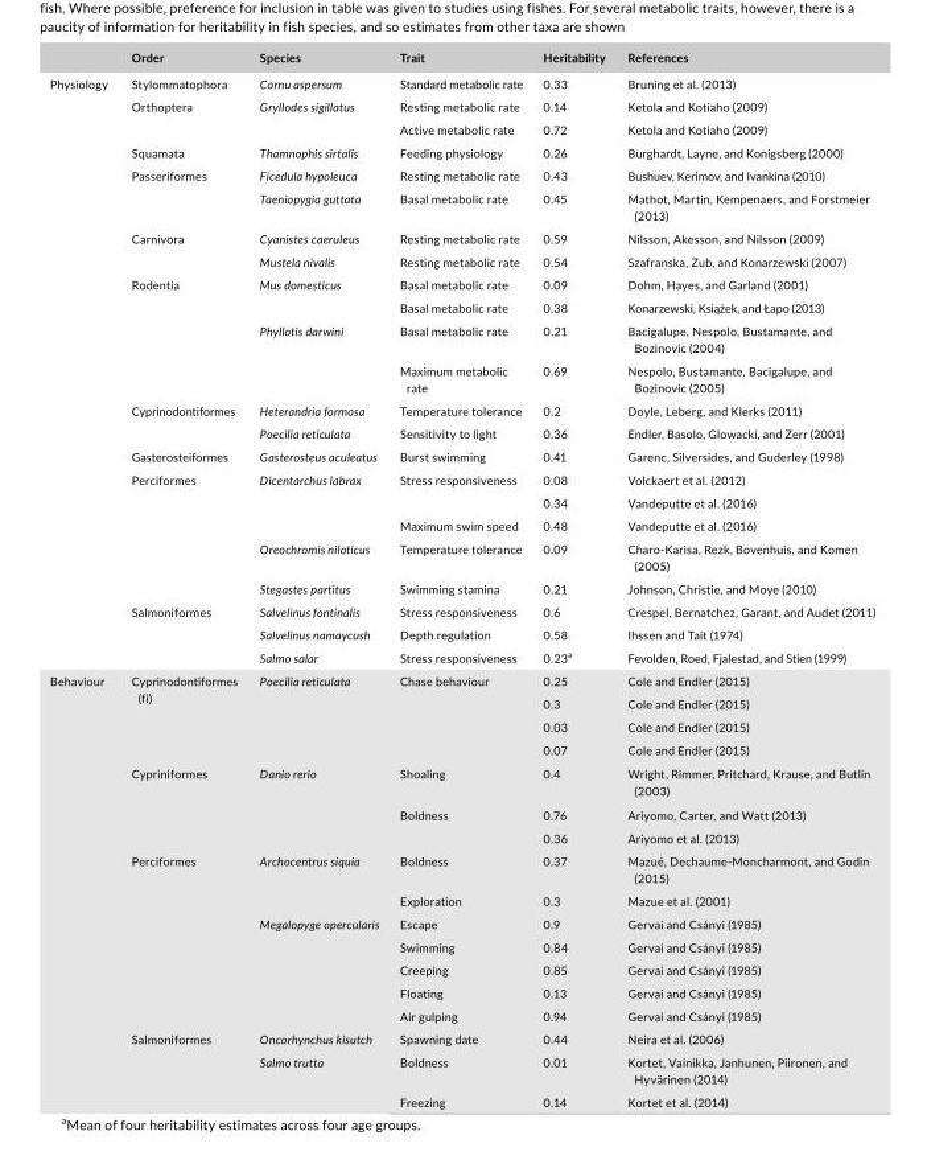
<table><thead><tr><td></td><td>Order</td><td>Species</td><td>Trait</td><td>Heritability</td><td>References</td></tr></thead><tbody><tr><td rowspan="23">Physiology</td><td>Stylommatophora</td><td>Cornu aspersum</td><td>Standard metabolic rate</td><td>0.33</td><td>Bruning et al. (2013)</td></tr><tr><td rowspan="2">Orthoptera</td><td rowspan="2">Gryllodes sigillatus</td><td>Resting metabolic rate</td><td>0.14</td><td>Ketola and Kotiaho (2009)</td></tr><tr><td>Active metabolic rate</td><td>0.72</td><td>Ketola and Kotiaho (2009)</td></tr><tr><td>Squamata</td><td>Thamnophis sirtalis</td><td>Feeding physiology</td><td>0.26</td><td>Burghardt, Layne, and Konigsberg (2000)</td></tr><tr><td rowspan="2">Passeriformes</td><td>Ficedula hypoleuca</td><td>Resting metabolic rate</td><td>0.43</td><td>Bushuev, Kerimov, and Ivankina (2010)</td></tr><tr><td>Taeniopygia guttata</td><td>Basal metabolic rate</td><td>0.45</td><td>Mathot, Martin, Kempenaers, and Forstmeier (2013)</td></tr><tr><td rowspan="2">Carnivora</td><td>Cyanistes caeruleus</td><td>Resting metabolic rate</td><td>0.59</td><td>Nilsson, Akesson, and Nilsson (2009)</td></tr><tr><td>Mustela nivalis</td><td>Resting metabolic rate</td><td>0.54</td><td>Szafranska, Zub, and Konarzewski (2007)</td></tr><tr><td rowspan="4">Rodentia</td><td rowspan="2">Mus domesticus</td><td>Basal metabolic rate</td><td>0.09</td><td>Dohm, Hayes, and Garland (2001)</td></tr><tr><td>Basal metabolic rate</td><td>0.38</td><td>Konarzewski, Książek, and Łapo (2013)</td></tr><tr><td rowspan="2">Phyllotis darwini</td><td>Basal metabolic rate</td><td>0.21</td><td>Bacigalupe, Nespolo, Bustamante, and Bozinovic (2004)</td></tr><tr><td>Maximum metabolic rate</td><td>0.69</td><td>Nespolo, Bustamante, Bacigalupe, and Bozinovic (2005)</td></tr><tr><td rowspan="2">Cyprinodontiformes</td><td>Heterandria formosa</td><td>Temperature tolerance</td><td>0.2</td><td>Doyle, Leberg, and Klerks (2011)</td></tr><tr><td>Poecilia reticulata</td><td>Sensitivity to light</td><td>0.36</td><td>Endler, Basolo, Glowacki, and Zerr (2001)</td></tr><tr><td>Gasterosteiformes</td><td>Gasterosteus aculeatus</td><td>Burst swimming</td><td>0.41</td><td>Garenc, Silversides, and Guderley (1998)</td></tr><tr><td rowspan="5">Perciformes</td><td rowspan="3">Dicentarchus labrax</td><td rowspan="2">Stress responsiveness</td><td>0.08</td><td>Volckaert et al. (2012)</td></tr><tr><td>0.34</td><td>Vandeputte et al. (2016)</td></tr><tr><td>Maximum swim speed</td><td>0.48</td><td>Vandeputte et al. (2016)</td></tr><tr><td>Oreochromis niloticus</td><td>Temperature tolerance</td><td>0.09</td><td>Charo- Karisa, Rezk, Bovenhuis, and Komen (2005)</td></tr><tr><td>Stegastes partitus</td><td>Swimming stamina</td><td>0.21</td><td>Johnson, Christie, and Moye (2010)</td></tr><tr><td rowspan="3">Salmoniformes</td><td>Salvelinus fontinalis</td><td>Stress responsiveness</td><td>0.6</td><td>Crespel, Bernatchez, Garant, and Audet (2011)</td></tr><tr><td>Salvelinus namaycush</td><td>Depth regulation</td><td>0.58</td><td>Ihssen and Tait (1974)</td></tr><tr><td>Salmo salar</td><td>Stress responsiveness</td><td>0.23<sup>a</sup></td><td>Fevolden, Roed, Fjalestad, and Stien (1999)</td></tr><tr><td rowspan="17">Behaviour</td><td rowspan="4">Cyprinodontiformes (fi)</td><td rowspan="4">Poecilia reticulata</td><td rowspan="4">Chase behaviour</td><td>0.25</td><td>Cole and Endler (2015)</td></tr><tr><td>0.3</td><td>Cole and Endler (2015)</td></tr><tr><td>0.03</td><td>Cole and Endler (2015)</td></tr><tr><td>0.07</td><td>Cole and Endler (2015)</td></tr><tr><td rowspan="3">Cypriniformes</td><td rowspan="3">Danio rerio</td><td>Shoaling</td><td>0.4</td><td>Wright, Rimmer, Pritchard, Krause, and Butlin (2003)</td></tr><tr><td rowspan="2">Boldness</td><td>0.76</td><td>Ariyomo, Carter, and Watt (2013)</td></tr><tr><td>0.36</td><td>Ariyomo et al. (2013)</td></tr><tr><td rowspan="7">Perciformes</td><td rowspan="2">Archocentrus siquia</td><td>Boldness</td><td>0.37</td><td>Mazué, Dechaume- Moncharmont, and Godin (2015)</td></tr><tr><td>Exploration</td><td>0.3</td><td>Mazue et al. (2001)</td></tr><tr><td rowspan="5">Megalopyge opercularis</td><td>Escape</td><td>0.9</td><td>Gervai and Csányi (1985)</td></tr><tr><td>Swimming</td><td>0.84</td><td>Gervai and Csányi (1985)</td></tr><tr><td>Creeping</td><td>0.85</td><td>Gervai and Csányi (1985)</td></tr><tr><td>Floating</td><td>0.13</td><td>Gervai and Csányi (1985)</td></tr><tr><td>Air gulping</td><td>0.94</td><td>Gervai and Csányi (1985)</td></tr><tr><td rowspan="3">Salmoniformes</td><td>Oncorhynchus kisutch</td><td>Spawning date</td><td>0.44</td><td>Neira et al. (2006)</td></tr><tr><td rowspan="2">Salmo trutta</td><td>Boldness</td><td>0.01</td><td>Kortet, Vainikka, Janhunen, Piironen, and Hyvärinen (2014)</td></tr><tr><td>Freezing</td><td>0.14</td><td>Kortet et al. (2014)</td></tr></tbody></table>